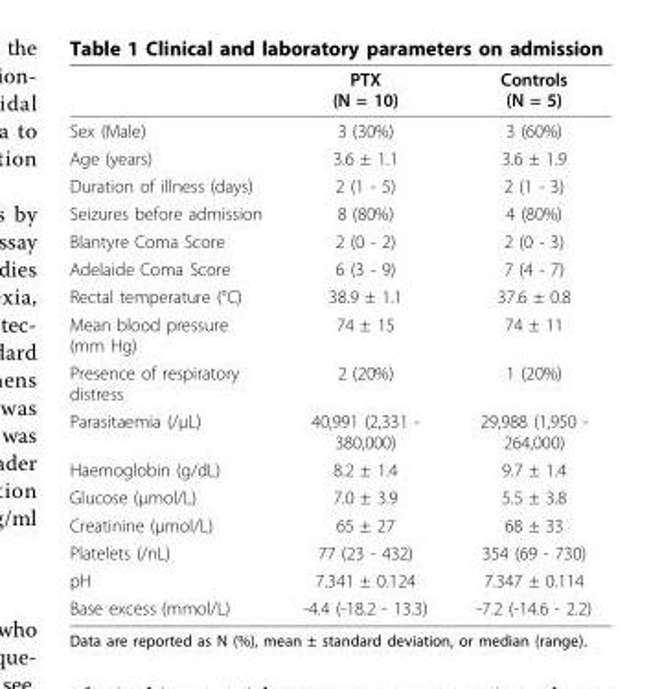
<table><thead><tr><td></td><td>PTX (N = 10)</td><td>Controls (N = 5)</td></tr></thead><tbody><tr><td>Sex (Male)</td><td>3 (30%)</td><td>3 (60%)</td></tr><tr><td>Age (years)</td><td>3.6 ± 1.1</td><td>3.6 ± 1.9</td></tr><tr><td>Duration of illness (days)</td><td>2 (1 - 5)</td><td>2 (1 - 3)</td></tr><tr><td>Seizures before admission</td><td>8 (80%)</td><td>4 (80%)</td></tr><tr><td>Blantyre Coma Score</td><td>2 (0 - 2)</td><td>2 (0 - 3)</td></tr><tr><td>Adelaide Coma Score</td><td>6 (3 - 9)</td><td>7 (4 - 7)</td></tr><tr><td>Rectal temperature (°C)</td><td>38.9 ± 1.1</td><td>37.6 ± 0.8</td></tr><tr><td>Mean blood pressure (mm Hg)</td><td>74 ± 15</td><td>74 ± 11</td></tr><tr><td>Presence of respiratory distress</td><td>2 (20%)</td><td>1 (20%)</td></tr><tr><td>Parasitaemia (/μL)</td><td>40,991 (2,331 - 380,000)</td><td>29,988 (1,950 - 264,000)</td></tr><tr><td>Haemoglobin (g/dL)</td><td>8.2 ± 1.4</td><td>9.7 ± 1.4</td></tr><tr><td>Glucose (μmol/L)</td><td>7.0 ± 3.9</td><td>5.5 ± 3.8</td></tr><tr><td>Creatinine (μmol/L)</td><td>65 ± 27</td><td>68 ± 33</td></tr><tr><td>Platelets (/nL)</td><td>77 (23 - 432)</td><td>354 (69 - 730)</td></tr><tr><td>pH</td><td>7.341 ± 0.124</td><td>7.347 ± 0.114</td></tr><tr><td>Base excess (mmol/L)</td><td>-4.4 (-18.2 - 13.3)</td><td>-7.2 (-14.6 - 2.2)</td></tr></tbody></table>